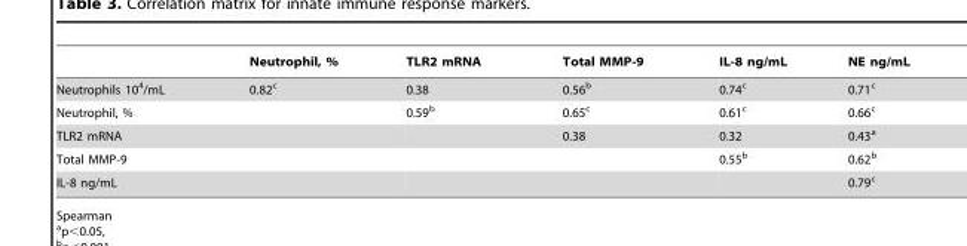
<table><thead><tr><td></td><td>Neutrophil, %</td><td>TLR2 mRNA</td><td>Total MMP-9</td><td>IL-8 ng/mL</td><td>NE ng/mL</td></tr></thead><tbody><tr><td>Neutrophils 10<sup>4</sup>/mL</td><td>0.82<sup>c</sup></td><td>0.38</td><td>0.56<sup>b</sup></td><td>0.74<sup>c</sup></td><td>0.71<sup>c</sup></td></tr><tr><td>Neutrophil, %</td><td></td><td>0.59<sup>b</sup></td><td>0.65<sup>c</sup></td><td>0.61<sup>c</sup></td><td>0.66<sup>c</sup></td></tr><tr><td>TLR2 mRNA</td><td></td><td></td><td>0.38</td><td>0.32</td><td>0.43<sup>a</sup></td></tr><tr><td>Total MMP-9</td><td></td><td></td><td></td><td>0.55<sup>b</sup></td><td>0.62<sup>b</sup></td></tr><tr><td>IL-8 ng/mL</td><td></td><td></td><td></td><td></td><td>0.79<sup>c</sup></td></tr></tbody></table>